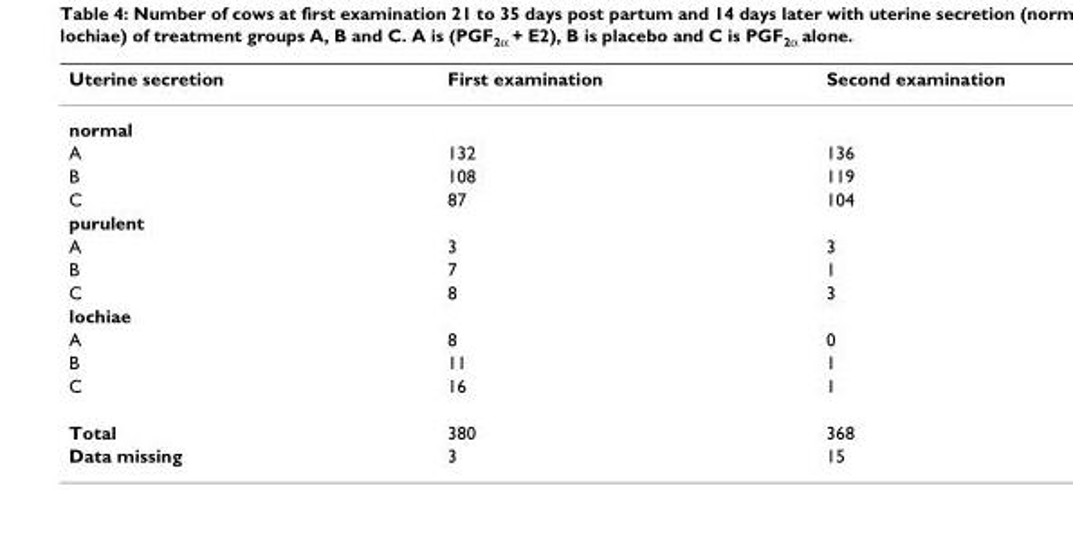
<table><thead><tr><td>Uterine secretion</td><td>First examination</td><td>Second examination</td></tr></thead><tbody><tr><td colspan="3">normal</td></tr><tr><td>A</td><td>132</td><td>136</td></tr><tr><td>B</td><td>108</td><td>119</td></tr><tr><td>C</td><td>87</td><td>104</td></tr><tr><td colspan="3">purulent</td></tr><tr><td>A</td><td>3</td><td>3</td></tr><tr><td>B</td><td>7</td><td>1</td></tr><tr><td>C</td><td>8</td><td>3</td></tr><tr><td colspan="3">lochiae</td></tr><tr><td>A</td><td>8</td><td>0</td></tr><tr><td>B</td><td>11</td><td>1</td></tr><tr><td>C</td><td>16</td><td>1</td></tr><tr><td>Total</td><td>380</td><td>368</td></tr><tr><td>Data missing</td><td>3</td><td>15</td></tr></tbody></table>